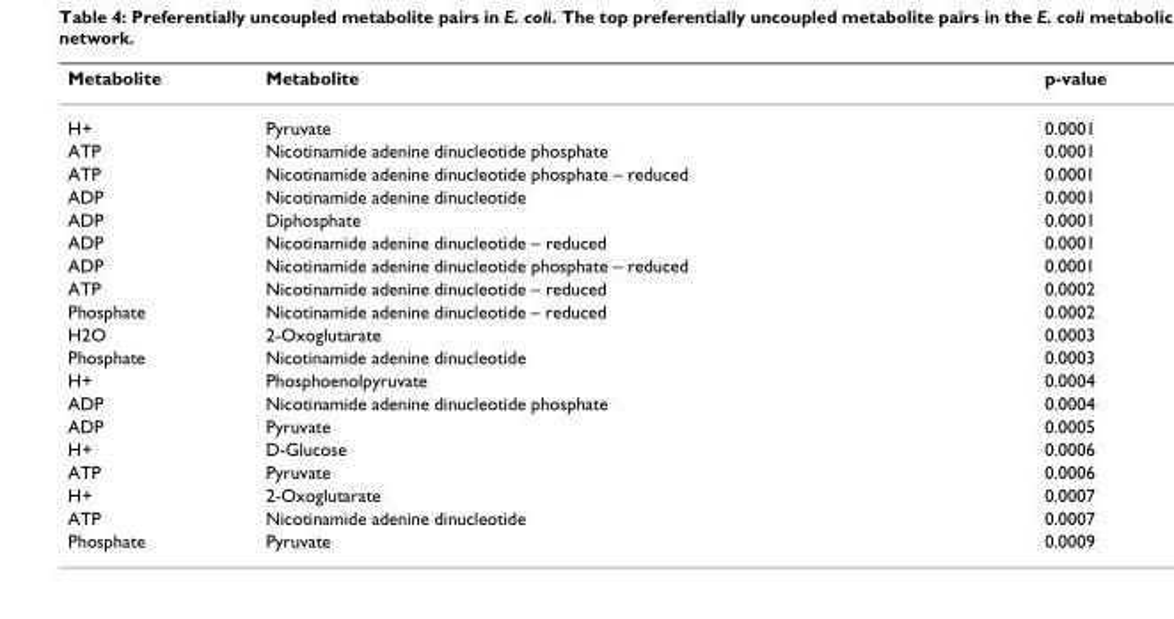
<table><thead><tr><td>Metabolite</td><td>Metabolite</td><td>p-value</td></tr></thead><tbody><tr><td>H+</td><td>Pyruvate</td><td>0.0001</td></tr><tr><td>ATP</td><td>Nicotinamide adenine dinucleotide phosphate</td><td>0.0001</td></tr><tr><td>ATP</td><td>Nicotinamide adenine dinucleotide phosphate – reduced</td><td>0.0001</td></tr><tr><td>ADP</td><td>Nicotinamide adenine dinucleotide</td><td>0.0001</td></tr><tr><td>ADP</td><td>Diphosphate</td><td>0.0001</td></tr><tr><td>ADP</td><td>Nicotinamide adenine dinucleotide – reduced</td><td>0.0001</td></tr><tr><td>ADP</td><td>Nicotinamide adenine dinucleotide phosphate – reduced</td><td>0.0001</td></tr><tr><td>ATP</td><td>Nicotinamide adenine dinucleotide – reduced</td><td>0.0002</td></tr><tr><td>Phosphate</td><td>Nicotinamide adenine dinucleotide – reduced</td><td>0.0002</td></tr><tr><td>H2O</td><td>2-Oxoglutarate</td><td>0.0003</td></tr><tr><td>Phosphate</td><td>Nicotinamide adenine dinucleotide</td><td>0.0003</td></tr><tr><td>H+</td><td>Phosphoenolpyruvate</td><td>0.0004</td></tr><tr><td>ADP</td><td>Nicotinamide adenine dinucleotide phosphate</td><td>0.0004</td></tr><tr><td>ADP</td><td>Pyruvate</td><td>0.0005</td></tr><tr><td>H+</td><td>D-Glucose</td><td>0.0006</td></tr><tr><td>ATP</td><td>Pyruvate</td><td>0.0006</td></tr><tr><td>H+</td><td>2-Oxoglutarate</td><td>0.0007</td></tr><tr><td>ATP</td><td>Nicotinamide adenine dinucleotide</td><td>0.0007</td></tr><tr><td>Phosphate</td><td>Pyruvate</td><td>0.0009</td></tr></tbody></table>